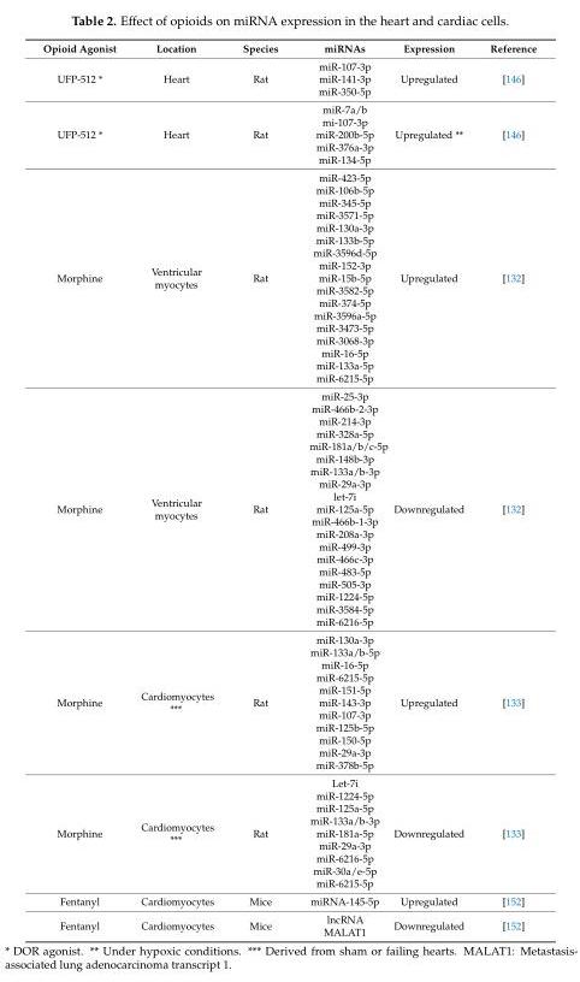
<table><thead><tr><td>Opioid Agonist</td><td>Location</td><td>Species</td><td>miRNAs</td><td>Expression</td><td>Reference</td></tr></thead><tbody><tr><td>UFP-512 *</td><td>Heart</td><td>Rat</td><td>miR-107-3p miR-141-3p miR-350-5p</td><td>Upregulated</td><td>[146]</td></tr><tr><td>UFP-512 *</td><td>Heart</td><td>Rat</td><td>miR-7a/b mi-107-3p miR-200b-5p miR-376a-3p miR-134-5p</td><td>Upregulated **</td><td>[146]</td></tr><tr><td>Morphine</td><td>Ventricular myocytes</td><td>Rat</td><td>miR-423-5p miR-106b-5p miR-345-5p miR-3571-5p miR-130a-3p miR-133b-5p miR-3596d-5p miR-152-3p miR-15b-5p miR-3582-5p miR-374-5p miR-3596a-5p miR-3473-5p miR-3068-3p miR-16-5p miR-133a-5p miR-6215-5p</td><td>Upregulated</td><td>[132]</td></tr><tr><td>Morphine</td><td>Ventricular myocytes</td><td>Rat</td><td>miR-25-3p miR-466b-2-3p miR-214-3p miR-328a-5p miR-181a/b/c-5p miR-148b-3p miR-133a/b-3p miR-29a-3p let-7i miR-125a-5p miR-466b-1-3p miR-208a-3p miR-499-3p miR-466c-3p miR-483-5p miR-505-3p miR-1224-5p miR-3584-5p miR-6216-5p</td><td>Downregulated</td><td>[132]</td></tr><tr><td>Morphine</td><td>Cardiomyocytes ***</td><td>Rat</td><td>miR-130a-3p miR-133a/b-5p miR-16-5p miR-6215-5p miR-151-5p miR-143-3p miR-107-3p miR-125b-5p miR-150-5p miR-29a-3p miR-378b-5p</td><td>Upregulated</td><td>[133]</td></tr><tr><td>Morphine</td><td>Cardiomyocytes ***</td><td>Rat</td><td>Let-7i miR-1224-5p miR-125a-5p miR-133a/b-3p miR-181a-5p miR-29a-3p miR-6216-5p miR-30a/e-5p miR-6215-5p</td><td>Downregulated</td><td>[133]</td></tr><tr><td>Fentanyl</td><td>Cardiomyocytes</td><td>Mice</td><td>miRNA-145-5p</td><td>Upregulated</td><td>[152]</td></tr><tr><td>Fentanyl</td><td>Cardiomyocytes</td><td>Mice</td><td>lncRNA MALAT1</td><td>Downregulated</td><td>[152]</td></tr></tbody></table>